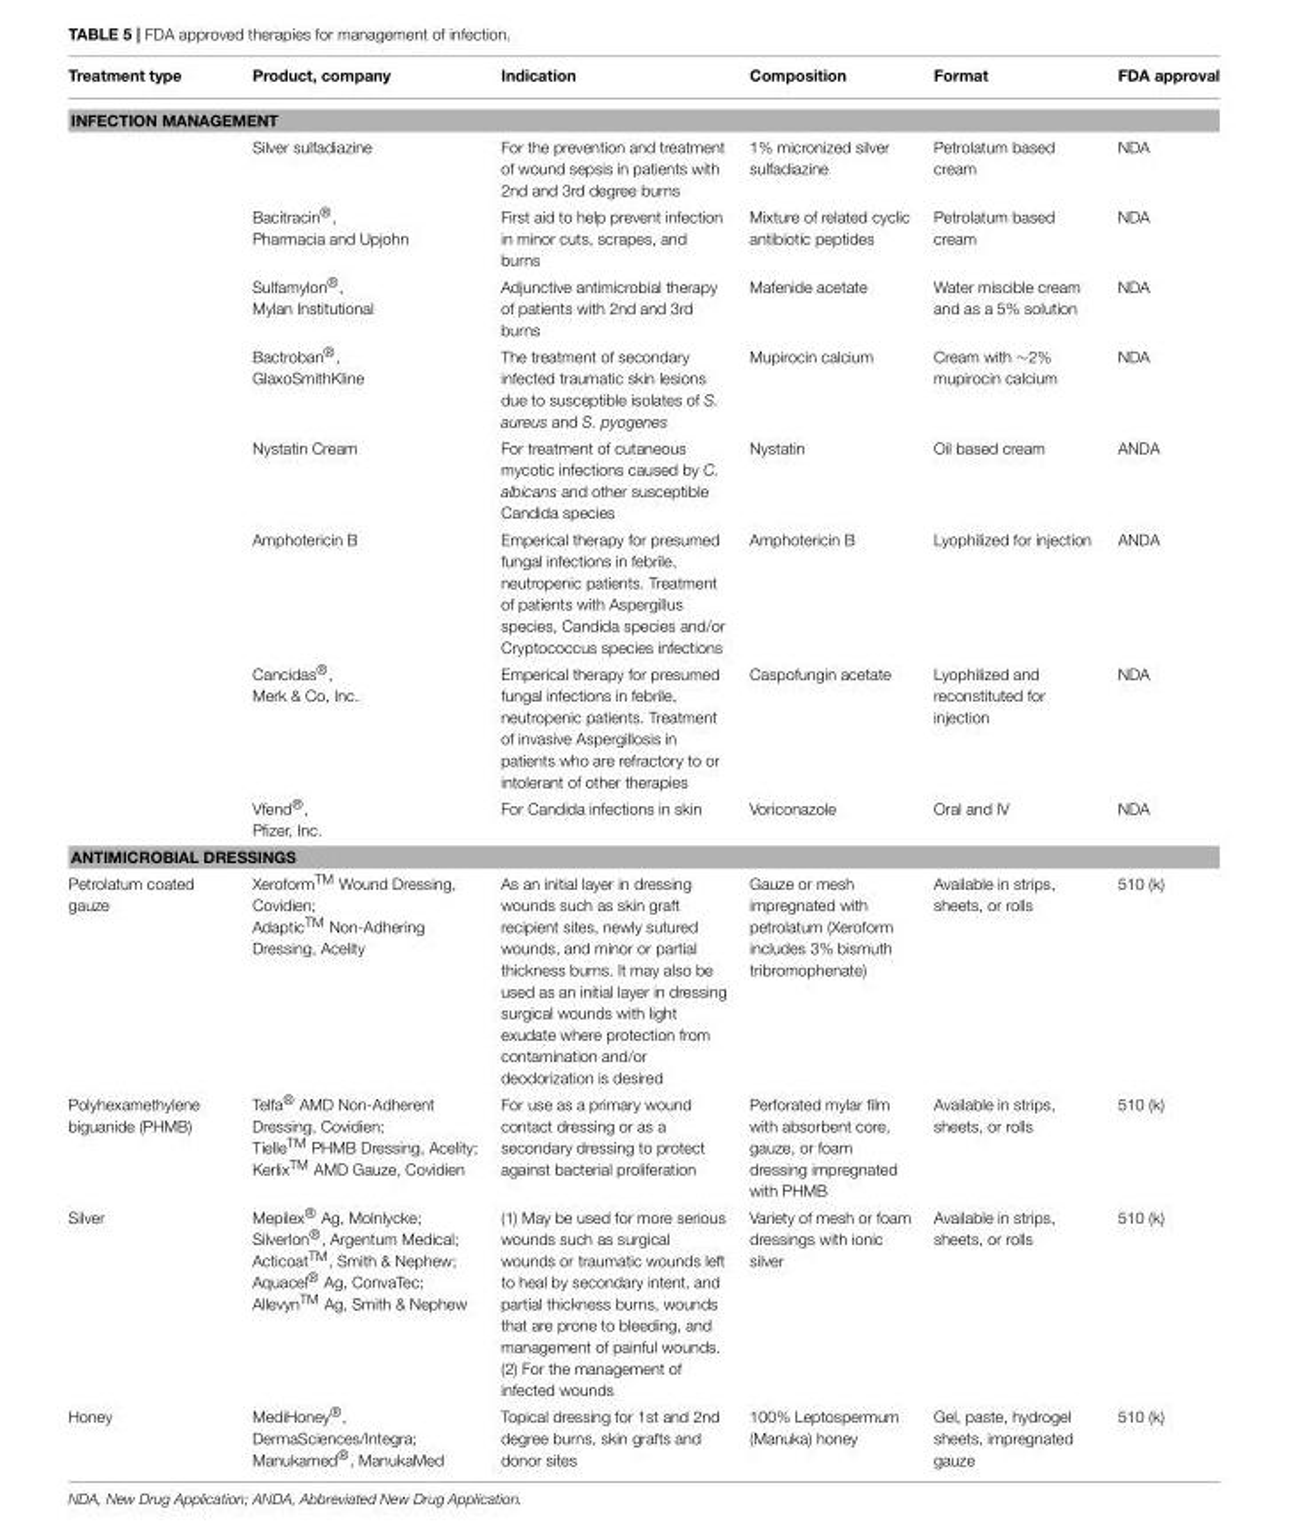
<table><thead><tr><td>Treatment type</td><td>Product, company</td><td>Indication</td><td>Composition</td><td>Format</td><td>FDA approval</td></tr></thead><tbody><tr><td colspan="6">INFECTION MANAGEMENT</td></tr><tr><td></td><td>Silver sulfadiazine</td><td>For the prevention and treatment of wound sepsis in patients with 2nd and 3rd degree burns</td><td>1% micronized silver sulfadiazine</td><td>Petrolatum based cream</td><td>NDA</td></tr><tr><td></td><td>Bacitracin®, Pharmacia and Upjohn</td><td>First aid to help prevent infection in minor cuts, scrapes, and burns</td><td>Mixture of related cyclic antibiotic peptides</td><td>Petrolatum based cream</td><td>NDA</td></tr><tr><td></td><td>Sulfamylon®, Mylan Institutional</td><td>Adjunctive antimicrobial therapy of patients with 2nd and 3rd burns</td><td>Mafenide acetate</td><td>Water miscible cream and as a 5% solution</td><td>NDA</td></tr><tr><td></td><td>Bactroban®, GlaxoSmithKline</td><td>The treatment of secondary infected traumatic skin lesions due to susceptible isolates of S. aureus and S. pyogenes</td><td>Mupirocin calcium</td><td>Cream with ∼2% mupirocin calcium</td><td>NDA</td></tr><tr><td></td><td>Nystatin Cream</td><td>For treatment of cutaneous mycotic infections caused by C. albicans and other susceptible Candida species</td><td>Nystatin</td><td>Oil based cream</td><td>ANDA</td></tr><tr><td></td><td>Amphotericin B</td><td>Emperical therapy for presumed fungal infections in febrile, neutropenic patients. Treatment of patients with Aspergillus species, Candida species and/or Cryptococcus species infections</td><td>Amphotericin B</td><td>Lyophilized for injection</td><td>ANDA</td></tr><tr><td></td><td>Cancidas®, Merk &amp; Co, Inc.</td><td>Emperical therapy for presumed fungal infections in febrile, neutropenic patients. Treatment of invasive Aspergillosis in patients who are refractory to or intolerant of other therapies</td><td>Caspofungin acetate</td><td>Lyophilized and reconstituted for injection</td><td>NDA</td></tr><tr><td></td><td>Vfend®, Pfizer, Inc.</td><td>For Candida infections in skin</td><td>Voriconazole</td><td>Oral and IV</td><td>NDA</td></tr><tr><td colspan="6">ANTIMICROBIAL DRESSINGS</td></tr><tr><td>Petrolatum coated gauze</td><td>XeroformTM Wound Dressing, Covidien; AdapticTM Non-Adhering Dressing, Acelity</td><td>As an initial layer in dressing wounds such as skin graft recipient sites, newly sutured wounds, and minor or partial thickness burns. It may also be used as an initial layer in dressing surgical wounds with light exudate where protection from contamination and/or deodorization is desired</td><td>Gauze or mesh impregnated with petrolatum (Xeroform includes 3% bismuth tribromophenate)</td><td>Available in strips, sheets, or rolls</td><td>510 (k)</td></tr><tr><td>Polyhexamethylene biguanide (PHMB)</td><td>Telfa® AMD Non-Adherent Dressing, Covidien; TielleTM PHMB Dressing, Acelity; KerlixTM AMD Gauze, Covidien</td><td>For use as a primary wound contact dressing or as a secondary dressing to protect against bacterial proliferation</td><td>Perforated mylar film with absorbent core, gauze, or foam dressing impregnated with PHMB</td><td>Available in strips, sheets, or rolls</td><td>510 (k)</td></tr><tr><td>Silver</td><td>Mepilex® Ag, Molnlycke; Silverlon®, Argentum Medical; ActicoatTM, Smith &amp; Nephew; Aquacel® Ag, ConvaTec; AllevynTM Ag, Smith &amp; Nephew</td><td>(1) May be used for more serious wounds such as surgical wounds or traumatic wounds left to heal by secondary intent, and partial thickness burns, wounds that are prone to bleeding, and management of painful wounds. (2) For the management of infected wounds</td><td>Variety of mesh or foam dressings with ionic silver</td><td>Available in strips, sheets, or rolls</td><td>510 (k)</td></tr><tr><td>Honey</td><td>MediHoney®, DermaSciences/Integra; Manukamed®, ManukaMed</td><td>Topical dressing for 1st and 2nd degree burns, skin grafts and donor sites</td><td>100% Leptospermum (Manuka) honey</td><td>Gel, paste, hydrogel sheets, impregnated gauze</td><td>510 (k)</td></tr></tbody></table>